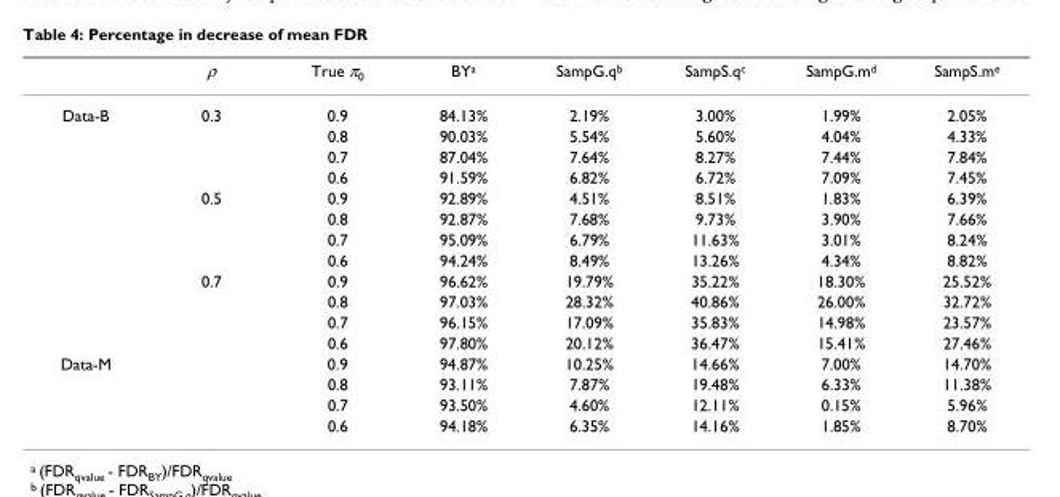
<table><thead><tr><td></td><td>ρ</td><td>True π<sub>0</sub></td><td>BY<sup>a</sup></td><td>SampG.q<sup>b</sup></td><td>SampS.q<sup>c</sup></td><td>SampG.m<sup>d</sup></td><td>SampS.m<sup>e</sup></td></tr></thead><tbody><tr><td rowspan="12">Data-B</td><td>0.3</td><td>0.9</td><td>84.13%</td><td>2.19%</td><td>3.00%</td><td>1.99%</td><td>2.05%</td></tr><tr><td></td><td>0.8</td><td>90.03%</td><td>5.54%</td><td>5.60%</td><td>4.04%</td><td>4.33%</td></tr><tr><td></td><td>0.7</td><td>87.04%</td><td>7.64%</td><td>8.27%</td><td>7.44%</td><td>7.84%</td></tr><tr><td></td><td>0.6</td><td>91.59%</td><td>6.82%</td><td>6.72%</td><td>7.09%</td><td>7.45%</td></tr><tr><td>0.5</td><td>0.9</td><td>92.89%</td><td>4.51%</td><td>8.51%</td><td>1.83%</td><td>6.39%</td></tr><tr><td></td><td>0.8</td><td>92.87%</td><td>7.68%</td><td>9.73%</td><td>3.90%</td><td>7.66%</td></tr><tr><td></td><td>0.7</td><td>95.09%</td><td>6.79%</td><td>11.63%</td><td>3.01%</td><td>8.24%</td></tr><tr><td></td><td>0.6</td><td>94.24%</td><td>8.49%</td><td>13.26%</td><td>4.34%</td><td>8.82%</td></tr><tr><td>0.7</td><td>0.9</td><td>96.62%</td><td>19.79%</td><td>35.22%</td><td>18.30%</td><td>25.52%</td></tr><tr><td></td><td>0.8</td><td>97.03%</td><td>28.32%</td><td>40.86%</td><td>26.00%</td><td>32.72%</td></tr><tr><td></td><td>0.7</td><td>96.15%</td><td>17.09%</td><td>35.83%</td><td>14.98%</td><td>23.57%</td></tr><tr><td></td><td>0.6</td><td>97.80%</td><td>20.12%</td><td>36.47%</td><td>15.41%</td><td>27.46%</td></tr><tr><td rowspan="4">Data-M</td><td></td><td>0.9</td><td>94.87%</td><td>10.25%</td><td>14.66%</td><td>7.00%</td><td>14.70%</td></tr><tr><td></td><td>0.8</td><td>93.11%</td><td>7.87%</td><td>19.48%</td><td>6.33%</td><td>11.38%</td></tr><tr><td></td><td>0.7</td><td>93.50%</td><td>4.60%</td><td>12.11%</td><td>0.15%</td><td>5.96%</td></tr><tr><td></td><td>0.6</td><td>94.18%</td><td>6.35%</td><td>14.16%</td><td>1.85%</td><td>8.70%</td></tr></tbody></table>